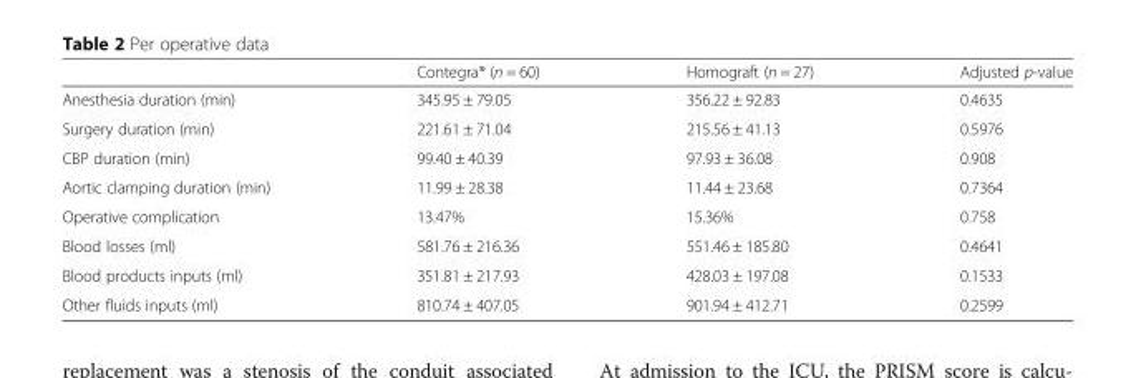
<table><thead><tr><td></td><td>Contegra® (n = 60)</td><td>Homograft (n = 27)</td><td>Adjusted p-value</td></tr></thead><tbody><tr><td>Anesthesia duration (min)</td><td>345.95 ± 79.05</td><td>356.22 ± 92.83</td><td>0.4635</td></tr><tr><td>Surgery duration (min)</td><td>221.61 ± 71.04</td><td>215.56 ± 41.13</td><td>0.5976</td></tr><tr><td>CBP duration (min)</td><td>99.40 ± 40.39</td><td>97.93 ± 36.08</td><td>0.908</td></tr><tr><td>Aortic clamping duration (min)</td><td>11.99 ± 28.38</td><td>11.44 ± 23.68</td><td>0.7364</td></tr><tr><td>Operative complication</td><td>13.47%</td><td>15.36%</td><td>0.758</td></tr><tr><td>Blood losses (ml)</td><td>581.76 ± 216.36</td><td>551.46 ± 185.80</td><td>0.4641</td></tr><tr><td>Blood products inputs (ml)</td><td>351.81 ± 217.93</td><td>428.03 ± 197.08</td><td>0.1533</td></tr><tr><td>Other fluids inputs (ml)</td><td>810.74 ± 407.05</td><td>901.94 ± 412.71</td><td>0.2599</td></tr></tbody></table>